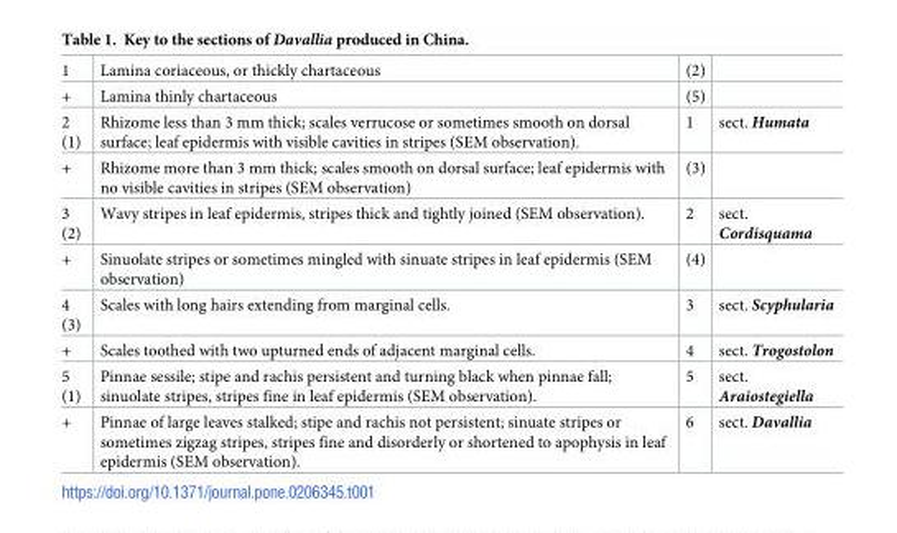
<table><tbody><tr><td>1</td><td>Lamina coriaceous, or thickly chartaceous</td><td>(2)</td><td></td></tr><tr><td>+</td><td>Lamina thinly chartaceous</td><td>(5)</td><td></td></tr><tr><td>2 (1)</td><td>Rhizome less than 3 mm thick; scales verrucose or sometimes smooth on dorsal surface; leaf epidermis with visible cavities in stripes (SEM observation).</td><td>1</td><td>sect. Humata</td></tr><tr><td>+</td><td>Rhizome more than 3 mm thick; scales smooth on dorsal surface; leaf epidermis with no visible cavities in stripes (SEM observation)</td><td>(3)</td><td></td></tr><tr><td>3 (2)</td><td>Wavy stripes in leaf epidermis, stripes thick and tightly joined (SEM observation).</td><td>2</td><td>sect. Cordisquama</td></tr><tr><td>+</td><td>Sinuolate stripes or sometimes mingled with sinuate stripes in leaf epidermis (SEM observation)</td><td>(4)</td><td></td></tr><tr><td>4 (3)</td><td>Scales with long hairs extending from marginal cells.</td><td>3</td><td>sect. Scyphularia</td></tr><tr><td>+</td><td>Scales toothed with two upturned ends of adjacent marginal cells.</td><td>4</td><td>sect. Trogostolon</td></tr><tr><td>5 (1)</td><td>Pinnae sessile; stipe and rachis persistent and turning black when pinnae fall; sinuolate stripes, stripes fine in leaf epidermis (SEM observation).</td><td>5</td><td>sect. Araiostegiella</td></tr><tr><td>+</td><td>Pinnae of large leaves stalked; stipe and rachis not persistent; sinuate stripes or sometimes zigzag stripes, stripes fine and disorderly or shortened to apophysis in leaf epidermis (SEM observation).</td><td>6</td><td>sect. Davallia</td></tr></tbody></table>